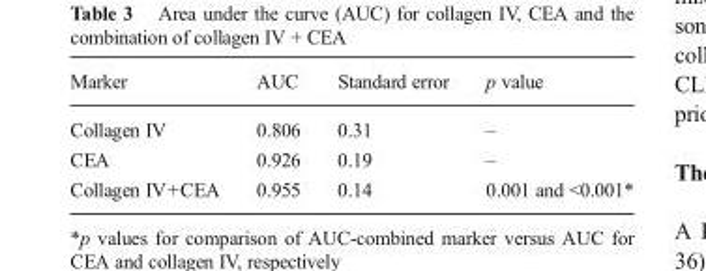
<table><thead><tr><td>Marker</td><td>AUC</td><td>Standard error</td><td>p value</td></tr></thead><tbody><tr><td>Collagen IV</td><td>0.806</td><td>0.31</td><td>–</td></tr><tr><td>CEA</td><td>0.926</td><td>0.19</td><td>–</td></tr><tr><td>Collagen IV+CEA</td><td>0.955</td><td>0.14</td><td>0.001 and &lt;0.001*</td></tr></tbody></table>